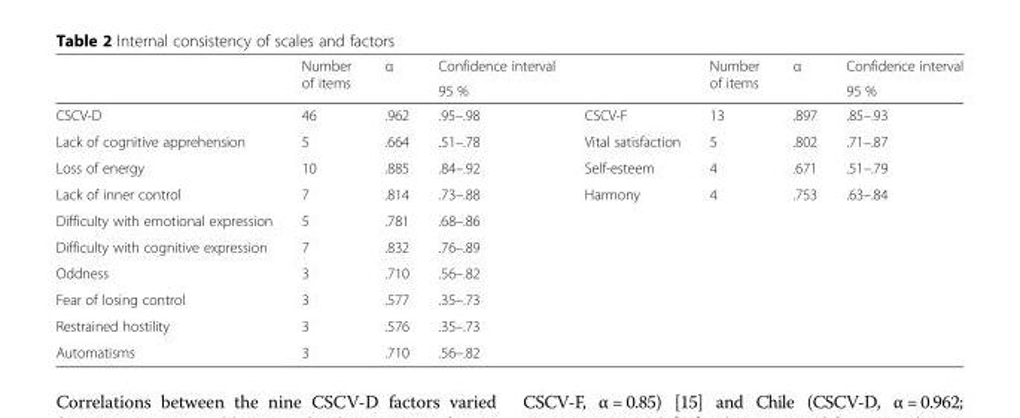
<table><thead><tr><td rowspan="2"></td><td rowspan="2">Number of items</td><td rowspan="2">α</td><td rowspan="2">Confidence interval 95 %</td><td rowspan="2"></td><td rowspan="2">Number of items</td><td rowspan="2">α</td><td rowspan="2">Confidence interval 95 %</td></tr><tr></tr></thead><tbody><tr><td>CSCV-D</td><td>46</td><td>.962</td><td>.95–.98</td><td>CSCV-F</td><td>13</td><td>.897</td><td>.85–.93</td></tr><tr><td>Lack of cognitive apprehension</td><td>5</td><td>.664</td><td>.51–.78</td><td>Vital satisfaction</td><td>5</td><td>.802</td><td>.71–.87</td></tr><tr><td>Loss of energy</td><td>10</td><td>.885</td><td>.84–.92</td><td>Self-esteem</td><td>4</td><td>.671</td><td>.51–.79</td></tr><tr><td>Lack of inner control</td><td>7</td><td>.814</td><td>.73–.88</td><td>Harmony</td><td>4</td><td>.753</td><td>.63–.84</td></tr><tr><td>Difficulty with emotional expression</td><td>5</td><td>.781</td><td>.68–.86</td><td></td><td></td><td></td><td></td></tr><tr><td>Difficulty with cognitive expression</td><td>7</td><td>.832</td><td>.76–.89</td><td></td><td></td><td></td><td></td></tr><tr><td>Oddness</td><td>3</td><td>.710</td><td>.56–.82</td><td></td><td></td><td></td><td></td></tr><tr><td>Fear of losing control</td><td>3</td><td>.577</td><td>.35–.73</td><td></td><td></td><td></td><td></td></tr><tr><td>Restrained hostility</td><td>3</td><td>.576</td><td>.35–.73</td><td></td><td></td><td></td><td></td></tr><tr><td>Automatisms</td><td>3</td><td>.710</td><td>.56–.82</td><td></td><td></td><td></td><td></td></tr></tbody></table>